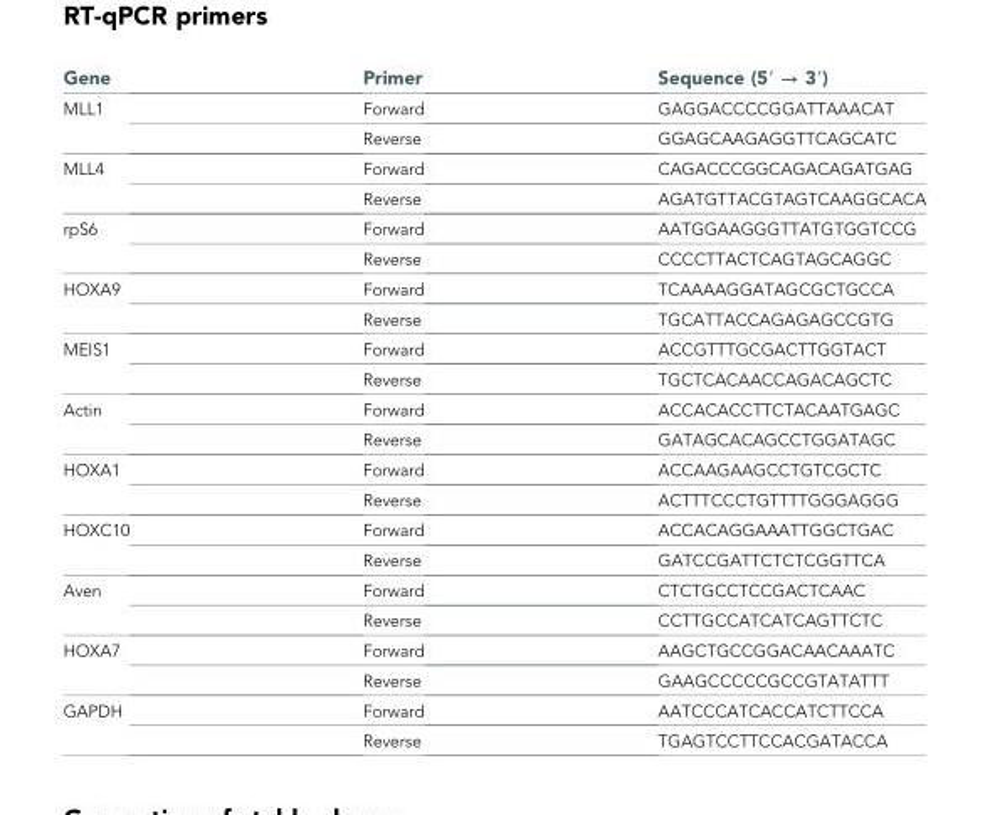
<table><thead><tr><td>Gene</td><td>Primer</td><td>Sequence (5′ → 3′)</td></tr></thead><tbody><tr><td rowspan="2">MLL1</td><td>Forward</td><td>GAGGACCCCGGATTAAACAT</td></tr><tr><td>Reverse</td><td>GGAGCAAGAGGTTCAGCATC</td></tr><tr><td rowspan="2">MLL4</td><td>Forward</td><td>CAGACCCGGCAGACAGATGAG</td></tr><tr><td>Reverse</td><td>AGATGTTACGTAGTCAAGGCACA</td></tr><tr><td rowspan="2">rpS6</td><td>Forward</td><td>AATGGAAGGGTTATGTGGTCCG</td></tr><tr><td>Reverse</td><td>CCCCTTACTCAGTAGCAGGC</td></tr><tr><td rowspan="2">HOXA9</td><td>Forward</td><td>TCAAAAGGATAGCGCTGCCA</td></tr><tr><td>Reverse</td><td>TGCATTACCAGAGAGCCGTG</td></tr><tr><td rowspan="2">MEIS1</td><td>Forward</td><td>ACCGTTTGCGACTTGGTACT</td></tr><tr><td>Reverse</td><td>TGCTCACAACCAGACAGCTC</td></tr><tr><td rowspan="2">Actin</td><td>Forward</td><td>ACCACACCTTCTACAATGAGC</td></tr><tr><td>Reverse</td><td>GATAGCACAGCCTGGATAGC</td></tr><tr><td rowspan="2">HOXA1</td><td>Forward</td><td>ACCAAGAAGCCTGTCGCTC</td></tr><tr><td>Reverse</td><td>ACTTTCCCTGTTTTGGGAGGG</td></tr><tr><td rowspan="2">HOXC10</td><td>Forward</td><td>ACCACAGGAAATTGGCTGAC</td></tr><tr><td>Reverse</td><td>GATCCGATTCTCTCGGTTCA</td></tr><tr><td rowspan="2">Aven</td><td>Forward</td><td>CTCTGCCTCCGACTCAAC</td></tr><tr><td>Reverse</td><td>CCTTGCCATCATCAGTTCTC</td></tr><tr><td rowspan="2">HOXA7</td><td>Forward</td><td>AAGCTGCCGGACAACAAATC</td></tr><tr><td>Reverse</td><td>GAAGCCCCCGCCGTATATTT</td></tr><tr><td rowspan="2">GAPDH</td><td>Forward</td><td>AATCCCATCACCATCTTCCA</td></tr><tr><td>Reverse</td><td>TGAGTCCTTCCACGATACCA</td></tr></tbody></table>